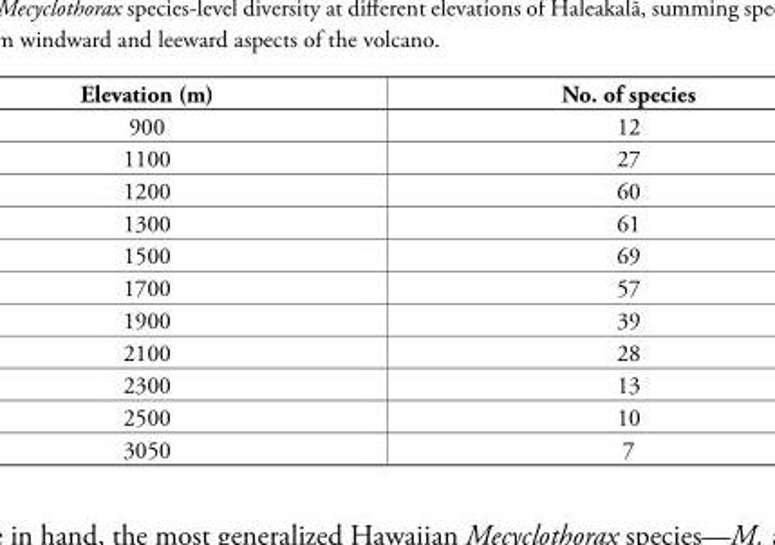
<table><thead><tr><td>Elevation (m)</td><td>No. of species</td></tr></thead><tbody><tr><td>900</td><td>12</td></tr><tr><td>1100</td><td>27</td></tr><tr><td>1200</td><td>60</td></tr><tr><td>1300</td><td>61</td></tr><tr><td>1500</td><td>69</td></tr><tr><td>1700</td><td>57</td></tr><tr><td>1900</td><td>39</td></tr><tr><td>2100</td><td>28</td></tr><tr><td>2300</td><td>13</td></tr><tr><td>2500</td><td>10</td></tr><tr><td>3050</td><td>7</td></tr></tbody></table>